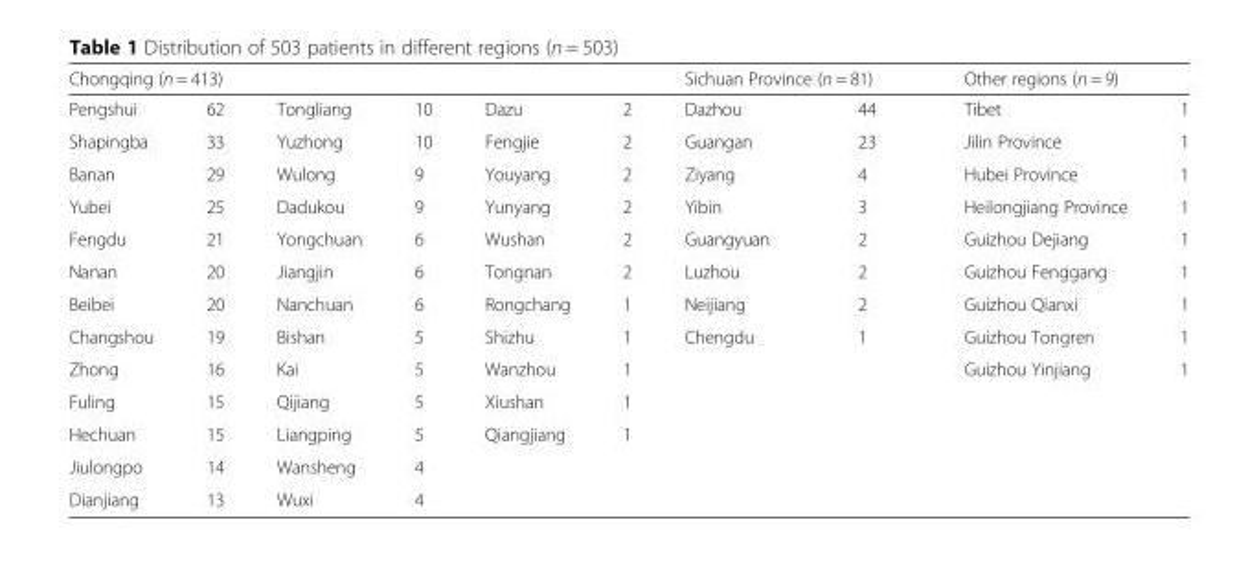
<table><thead><tr><td colspan="6">Chongqing (n = 413)</td><td colspan="2">Sichuan Province (n = 81)</td><td colspan="2">Other regions (n = 9)</td></tr><tr><td>Pengshui</td><td>62</td><td>Tongliang</td><td>10</td><td>Dazu</td><td>2</td><td>Dazhou</td><td>44</td><td>Tibet</td><td>1</td></tr></thead><tbody><tr><td>Shapingba</td><td>33</td><td>Yuzhong</td><td>10</td><td>Fengjie</td><td>2</td><td>Guangan</td><td>23</td><td>Jilin Province</td><td>1</td></tr><tr><td>Banan</td><td>29</td><td>Wulong</td><td>9</td><td>Youyang</td><td>2</td><td>Ziyang</td><td>4</td><td>Hubei Province</td><td>1</td></tr><tr><td>Yubei</td><td>25</td><td>Dadukou</td><td>9</td><td>Yunyang</td><td>2</td><td>Yibin</td><td>3</td><td>Heilongjiang Province</td><td>1</td></tr><tr><td>Fengdu</td><td>21</td><td>Yongchuan</td><td>6</td><td>Wushan</td><td>2</td><td>Guangyuan</td><td>2</td><td>Guizhou Dejiang</td><td>1</td></tr><tr><td>Nanan</td><td>20</td><td>Jiangjin</td><td>6</td><td>Tongnan</td><td>2</td><td>Luzhou</td><td>2</td><td>Guizhou Fenggang</td><td>1</td></tr><tr><td>Beibei</td><td>20</td><td>Nanchuan</td><td>6</td><td>Rongchang</td><td>1</td><td>Neijiang</td><td>2</td><td>Guizhou Qianxi</td><td>1</td></tr><tr><td>Changshou</td><td>19</td><td>Bishan</td><td>5</td><td>Shizhu</td><td>1</td><td>Chengdu</td><td>1</td><td>Guizhou Tongren</td><td>1</td></tr><tr><td>Zhong</td><td>16</td><td>Kai</td><td>5</td><td>Wanzhou</td><td>1</td><td></td><td></td><td>Guizhou Yinjiang</td><td>1</td></tr><tr><td>Fuling</td><td>15</td><td>Qijiang</td><td>5</td><td>Xiushan</td><td>1</td><td></td><td></td><td></td><td></td></tr><tr><td>Hechuan</td><td>15</td><td>Liangping</td><td>5</td><td>Qiangjiang</td><td>1</td><td></td><td></td><td></td><td></td></tr><tr><td>Jiulongpo</td><td>14</td><td>Wansheng</td><td>4</td><td></td><td></td><td></td><td></td><td></td><td></td></tr><tr><td>Dianjiang</td><td>13</td><td>Wuxi</td><td>4</td><td></td><td></td><td></td><td></td><td></td><td></td></tr></tbody></table>